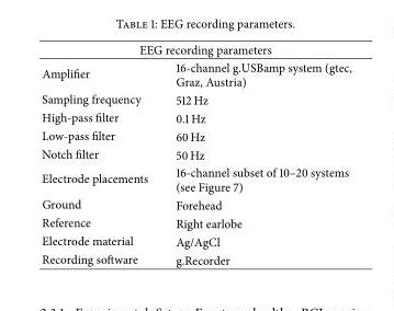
<table><tbody><tr><td colspan="2">EEG recording parameters</td></tr><tr><td>Amplifier</td><td>16-channel g.USBamp system (gtec, Graz, Austria)</td></tr><tr><td>Sampling frequency</td><td>512 Hz</td></tr><tr><td>High-pass filter</td><td>0.1 Hz</td></tr><tr><td>Low-pass filter</td><td>60 Hz</td></tr><tr><td>Notch filter</td><td>50 Hz</td></tr><tr><td>Electrode placements</td><td>16-channel subset of 10–20 systems (see Figure 7)</td></tr><tr><td>Ground</td><td>Forehead</td></tr><tr><td>Reference</td><td>Right earlobe</td></tr><tr><td>Electrode material</td><td>Ag/AgCl</td></tr><tr><td>Recording software</td><td>g.Recorder</td></tr></tbody></table>